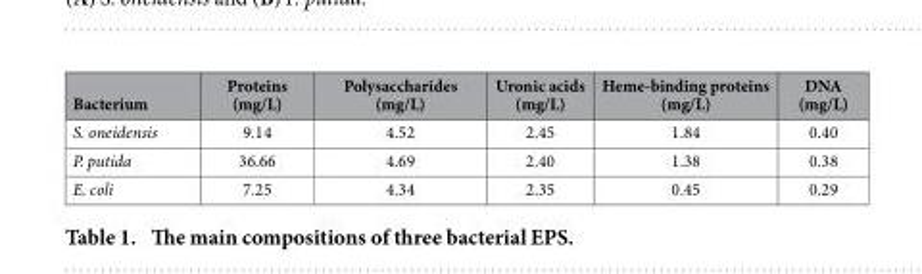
<table><thead><tr><td>Bacterium</td><td>Proteins (mg/L)</td><td>Polysaccharides (mg/L)</td><td>Uronic acids (mg/L)</td><td>Heme-binding proteins (mg/L)</td><td>DNA (mg/L)</td></tr></thead><tbody><tr><td>S. oneidensis</td><td>9.14</td><td>4.52</td><td>2.45</td><td>1.84</td><td>0.40</td></tr><tr><td>P. putida</td><td>36.66</td><td>4.69</td><td>2.40</td><td>1.38</td><td>0.38</td></tr><tr><td>E. coli</td><td>7.25</td><td>4.34</td><td>2.35</td><td>0.45</td><td>0.29</td></tr></tbody></table>